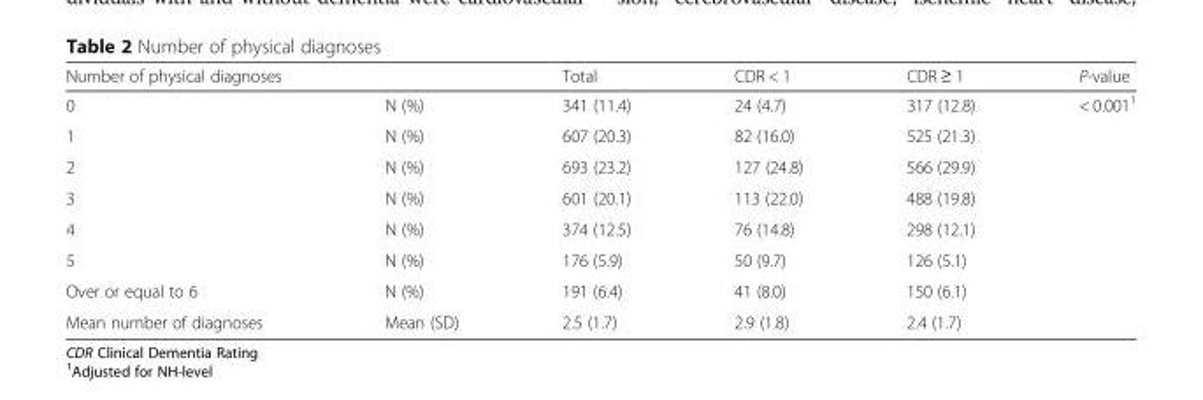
<table><thead><tr><td>Number of physical diagnoses</td><td></td><td>Total</td><td>CDR &lt; 1</td><td>CDR ≥ 1</td><td>P-value</td></tr></thead><tbody><tr><td>0</td><td>N (%)</td><td>341 (11.4)</td><td>24 (4.7)</td><td>317 (12.8)</td><td rowspan="8">&lt; 0.001<sup>1</sup></td></tr><tr><td>1</td><td>N (%)</td><td>607 (20.3)</td><td>82 (16.0)</td><td>525 (21.3)</td></tr><tr><td>2</td><td>N (%)</td><td>693 (23.2)</td><td>127 (24.8)</td><td>566 (29.9)</td></tr><tr><td>3</td><td>N (%)</td><td>601 (20.1)</td><td>113 (22.0)</td><td>488 (19.8)</td></tr><tr><td>4</td><td>N (%)</td><td>374 (12.5)</td><td>76 (14.8)</td><td>298 (12.1)</td></tr><tr><td>5</td><td>N (%)</td><td>176 (5.9)</td><td>50 (9.7)</td><td>126 (5.1)</td></tr><tr><td>Over or equal to 6</td><td>N (%)</td><td>191 (6.4)</td><td>41 (8.0)</td><td>150 (6.1)</td></tr><tr><td>Mean number of diagnoses</td><td>Mean (SD)</td><td>2.5 (1.7)</td><td>2.9 (1.8)</td><td>2.4 (1.7)</td></tr></tbody></table>